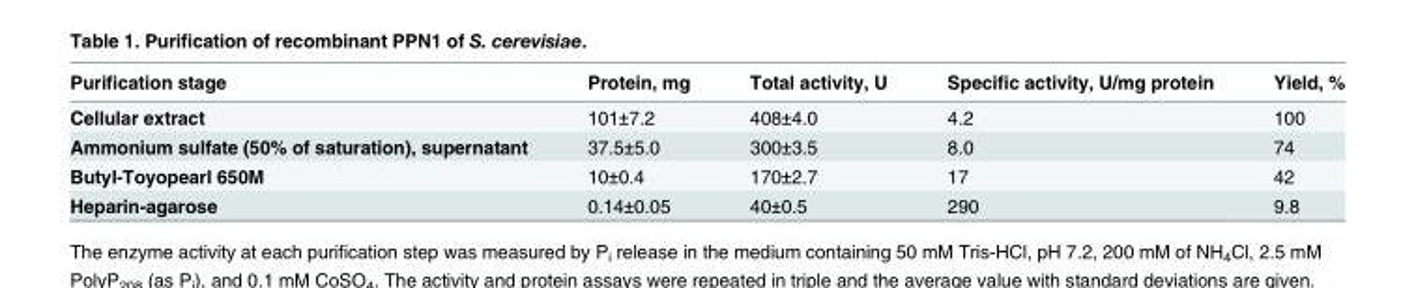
<table><thead><tr><td>Purification stage</td><td>Protein, mg</td><td>Total activity, U</td><td>Specific activity, U/mg protein</td><td>Yield, %</td></tr></thead><tbody><tr><td>Cellular extract</td><td>101±7.2</td><td>408±4.0</td><td>4.2</td><td>100</td></tr><tr><td>Ammonium sulfate (50% of saturation), supernatant</td><td>37.5±5.0</td><td>300±3.5</td><td>8.0</td><td>74</td></tr><tr><td>Butyl-Toyopearl 650M</td><td>10±0.4</td><td>170±2.7</td><td>17</td><td>42</td></tr><tr><td>Heparin-agarose</td><td>0.14±0.05</td><td>40±0.5</td><td>290</td><td>9.8</td></tr></tbody></table>